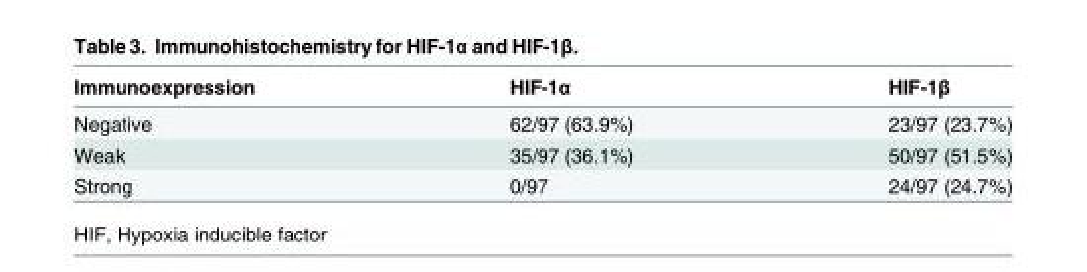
<table><thead><tr><td>Immunoexpression</td><td>HIF-1α</td><td>HIF-1β</td></tr></thead><tbody><tr><td>Negative</td><td>62/97 (63.9%)</td><td>23/97 (23.7%)</td></tr><tr><td>Weak</td><td>35/97 (36.1%)</td><td>50/97 (51.5%)</td></tr><tr><td>Strong</td><td>0/97</td><td>24/97 (24.7%)</td></tr></tbody></table>